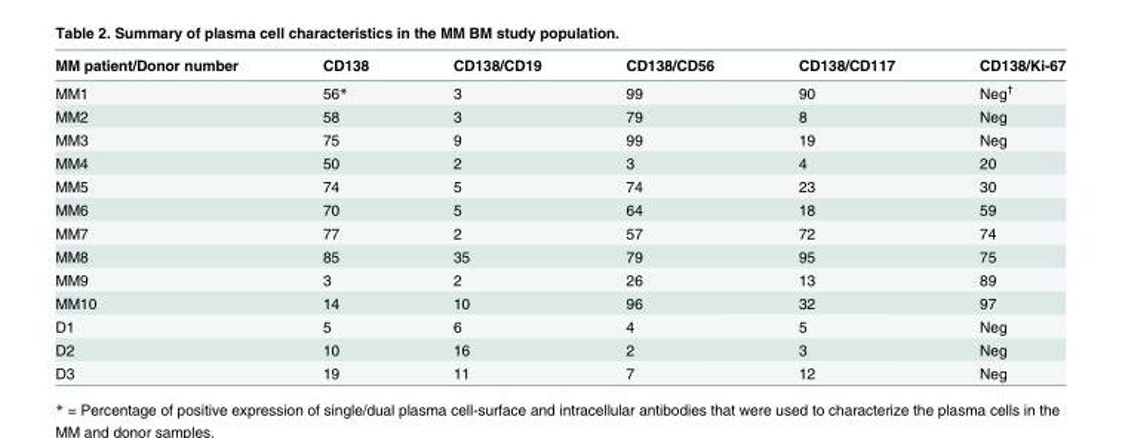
<table><thead><tr><td>MM patient/Donor number</td><td>CD138</td><td>CD138/CD19</td><td>CD138/CD56</td><td>CD138/CD117</td><td>CD138/Ki-67</td></tr></thead><tbody><tr><td>MM1</td><td>56*</td><td>3</td><td>99</td><td>90</td><td>Neg<sup>†</sup></td></tr><tr><td>MM2</td><td>58</td><td>3</td><td>79</td><td>8</td><td>Neg</td></tr><tr><td>MM3</td><td>75</td><td>9</td><td>99</td><td>19</td><td>Neg</td></tr><tr><td>MM4</td><td>50</td><td>2</td><td>3</td><td>4</td><td>20</td></tr><tr><td>MM5</td><td>74</td><td>5</td><td>74</td><td>23</td><td>30</td></tr><tr><td>MM6</td><td>70</td><td>5</td><td>64</td><td>18</td><td>59</td></tr><tr><td>MM7</td><td>77</td><td>2</td><td>57</td><td>72</td><td>74</td></tr><tr><td>MM8</td><td>85</td><td>35</td><td>79</td><td>95</td><td>75</td></tr><tr><td>MM9</td><td>3</td><td>2</td><td>26</td><td>13</td><td>89</td></tr><tr><td>MM10</td><td>14</td><td>10</td><td>96</td><td>32</td><td>97</td></tr><tr><td>D1</td><td>5</td><td>6</td><td>4</td><td>5</td><td>Neg</td></tr><tr><td>D2</td><td>10</td><td>16</td><td>2</td><td>3</td><td>Neg</td></tr><tr><td>D3</td><td>19</td><td>11</td><td>7</td><td>12</td><td>Neg</td></tr></tbody></table>